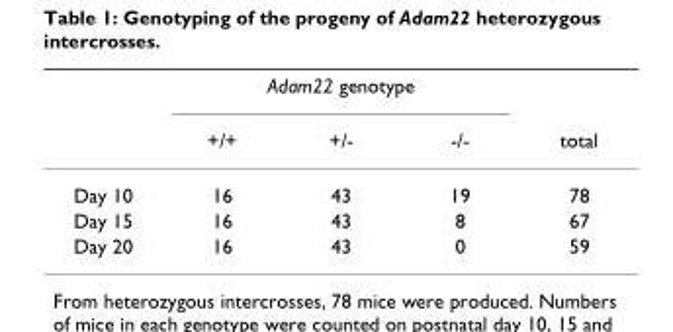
<table><thead><tr><td rowspan="2"></td><td colspan="3">Adam22 genotype</td><td rowspan="2">total</td></tr><tr><td>+/+</td><td>+/-</td><td>-/-</td></tr></thead><tbody><tr><td>Day 10</td><td>16</td><td>43</td><td>19</td><td>78</td></tr><tr><td>Day 15</td><td>16</td><td>43</td><td>8</td><td>67</td></tr><tr><td>Day 20</td><td>16</td><td>43</td><td>0</td><td>59</td></tr></tbody></table>